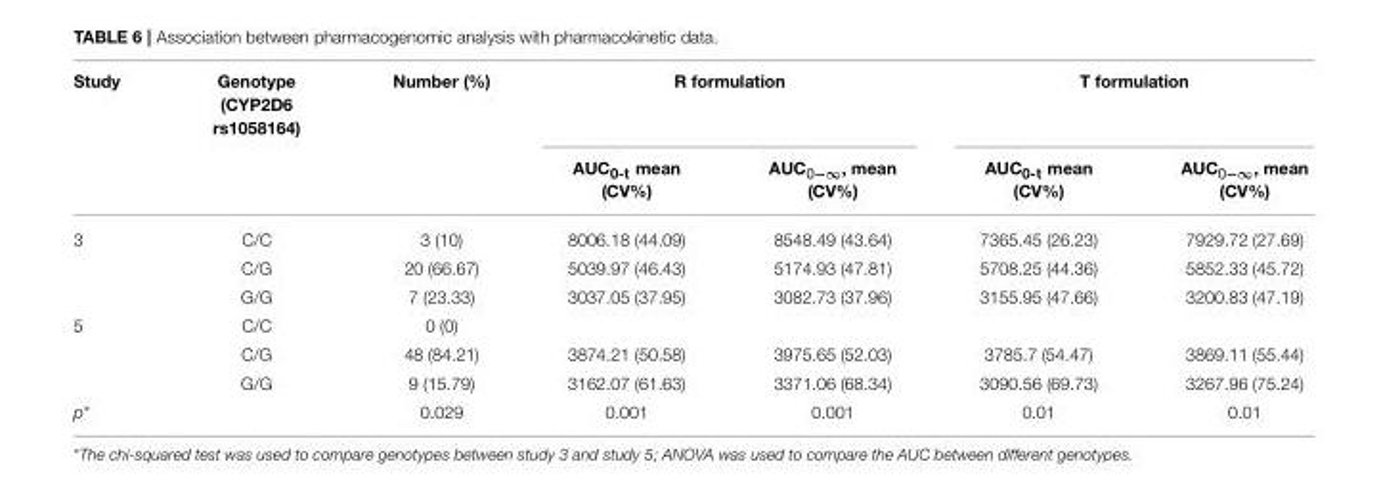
<table><thead><tr><td rowspan="2">Study</td><td rowspan="2">Genotype (CYP2D6 rs1058164)</td><td rowspan="2">Number (%)</td><td colspan="2">R formulation</td><td colspan="2">T formulation</td></tr><tr><td>AUC<sub>0-t</sub> mean (CV%)</td><td>AUC<sub>0−∞</sub>, mean (CV%)</td><td>AUC<sub>0-t</sub> mean (CV%)</td><td>AUC<sub>0−∞</sub>, mean (CV%)</td></tr></thead><tbody><tr><td rowspan="3">3</td><td>C/C</td><td>3 (10)</td><td>8006.18 (44.09)</td><td>8548.49 (43.64)</td><td>7365.45 (26.23)</td><td>7929.72 (27.69)</td></tr><tr><td>C/G</td><td>20 (66.67)</td><td>5039.97 (46.43)</td><td>5174.93 (47.81)</td><td>5708.25 (44.36)</td><td>5852.33 (45.72)</td></tr><tr><td>G/G</td><td>7 (23.33)</td><td>3037.05 (37.95)</td><td>3082.73 (37.96)</td><td>3155.95 (47.66)</td><td>3200.83 (47.19)</td></tr><tr><td rowspan="3">5</td><td>C/C</td><td>0 (0)</td><td></td><td></td><td></td><td></td></tr><tr><td>C/G</td><td>48 (84.21)</td><td>3874.21 (50.58)</td><td>3975.65 (52.03)</td><td>3785.7 (54.47)</td><td>3869.11 (55.44)</td></tr><tr><td>G/G</td><td>9 (15.79)</td><td>3162.07 (61.63)</td><td>3371.06 (68.34)</td><td>3090.56 (69.73)</td><td>3267.96 (75.24)</td></tr><tr><td>p*</td><td></td><td>0.029</td><td>0.001</td><td>0.001</td><td>0.01</td><td>0.01</td></tr></tbody></table>